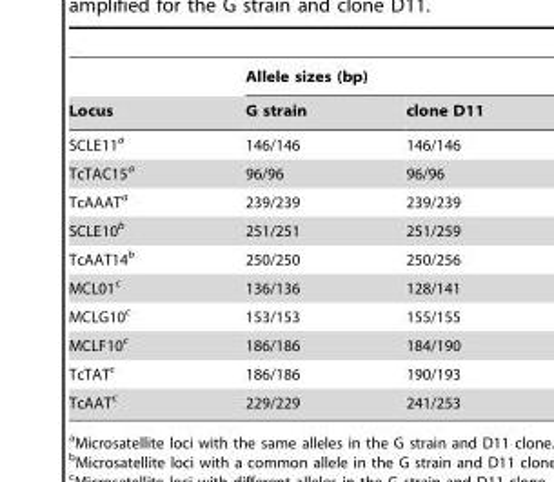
<table><thead><tr><td rowspan="2">Locus</td><td colspan="2">Allele sizes (bp)</td></tr><tr><td>G strain</td><td>clone D11</td></tr></thead><tbody><tr><td>SCLE11<sup>a</sup></td><td>146/146</td><td>146/146</td></tr><tr><td>TcTAC15<sup>a</sup></td><td>96/96</td><td>96/96</td></tr><tr><td>TcAAAT<sup>a</sup></td><td>239/239</td><td>239/239</td></tr><tr><td>SCLE10<sup>b</sup></td><td>251/251</td><td>251/259</td></tr><tr><td>TcAAT14<sup>b</sup></td><td>250/250</td><td>250/256</td></tr><tr><td>MCL01<sup>c</sup></td><td>136/136</td><td>128/141</td></tr><tr><td>MCLG10<sup>c</sup></td><td>153/153</td><td>155/155</td></tr><tr><td>MCLF10<sup>c</sup></td><td>186/186</td><td>184/190</td></tr><tr><td>TcTAT<sup>c</sup></td><td>186/186</td><td>190/193</td></tr><tr><td>TcAAT<sup>c</sup></td><td>229/229</td><td>241/253</td></tr></tbody></table>